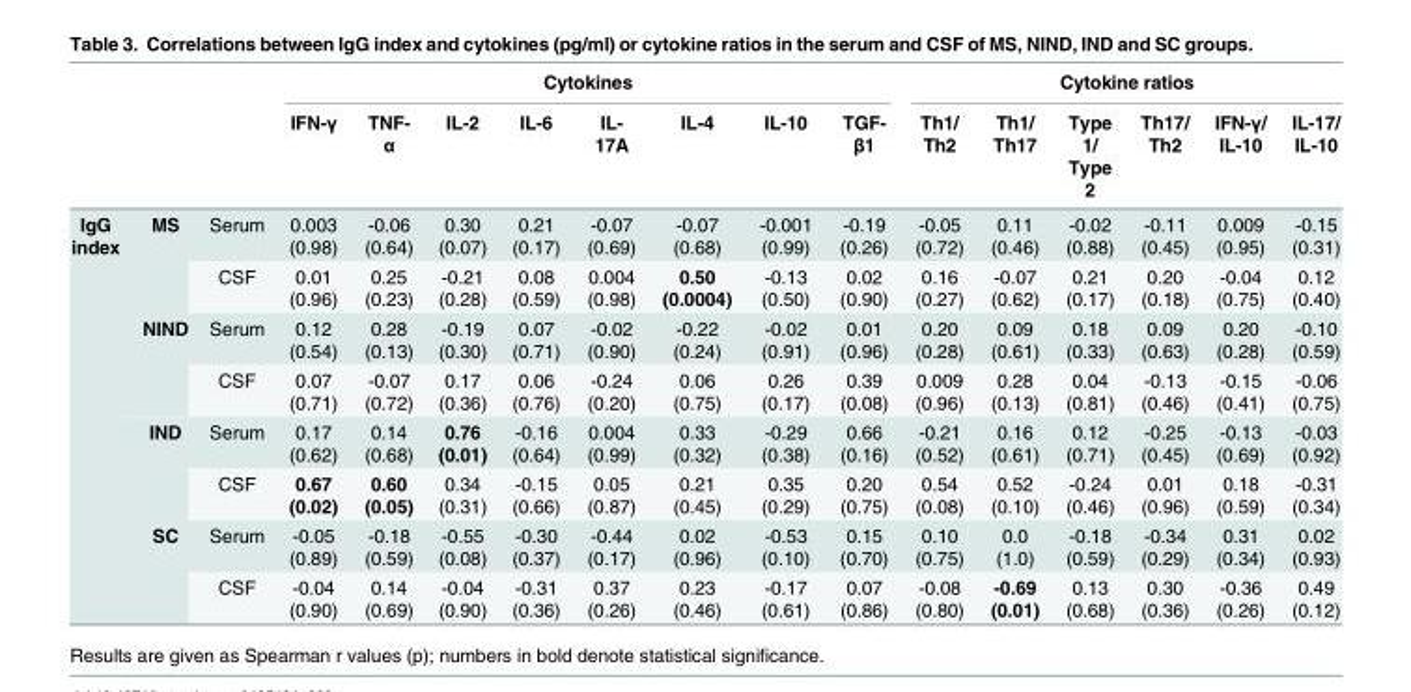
<table><thead><tr><td rowspan="2"></td><td rowspan="2"></td><td rowspan="2"></td><td colspan="8">Cytokines</td><td colspan="6">Cytokine ratios</td></tr><tr><td>IFN-γ</td><td>TNF- α</td><td>IL-2</td><td>IL-6</td><td>IL- 17A</td><td>IL-4</td><td>IL-10</td><td>TGF- β1</td><td>Th1/ Th2</td><td>Th1/ Th17</td><td>Type 1/ Type 2</td><td>Th17/ Th2</td><td>IFN-γ/ IL-10</td><td>IL-17/ IL-10</td></tr></thead><tbody><tr><td rowspan="8">IgG index</td><td rowspan="2">MS</td><td>Serum</td><td>0.003 (0.98)</td><td>-0.06 (0.64)</td><td>0.30 (0.07)</td><td>0.21 (0.17)</td><td>-0.07 (0.69)</td><td>-0.07 (0.68)</td><td>-0.001 (0.99)</td><td>-0.19 (0.26)</td><td>-0.05 (0.72)</td><td>0.11 (0.46)</td><td>-0.02 (0.88)</td><td>-0.11 (0.45)</td><td>0.009 (0.95)</td><td>-0.15 (0.31)</td></tr><tr><td>CSF</td><td>0.01 (0.96)</td><td>0.25 (0.23)</td><td>-0.21 (0.28)</td><td>0.08 (0.59)</td><td>0.004 (0.98)</td><td>0.50 (0.0004)</td><td>-0.13 (0.50)</td><td>0.02 (0.90)</td><td>0.16 (0.27)</td><td>-0.07 (0.62)</td><td>0.21 (0.17)</td><td>0.20 (0.18)</td><td>-0.04 (0.75)</td><td>0.12 (0.40)</td></tr><tr><td rowspan="2">NIND</td><td>Serum</td><td>0.12 (0.54)</td><td>0.28 (0.13)</td><td>-0.19 (0.30)</td><td>0.07 (0.71)</td><td>-0.02 (0.90)</td><td>-0.22 (0.24)</td><td>-0.02 (0.91)</td><td>0.01 (0.96)</td><td>0.20 (0.28)</td><td>0.09 (0.61)</td><td>0.18 (0.33)</td><td>0.09 (0.63)</td><td>0.20 (0.28)</td><td>-0.10 (0.59)</td></tr><tr><td>CSF</td><td>0.07 (0.71)</td><td>-0.07 (0.72)</td><td>0.17 (0.36)</td><td>0.06 (0.76)</td><td>-0.24 (0.20)</td><td>0.06 (0.75)</td><td>0.26 (0.17)</td><td>0.39 (0.08)</td><td>0.009 (0.96)</td><td>0.28 (0.13)</td><td>0.04 (0.81)</td><td>-0.13 (0.46)</td><td>-0.15 (0.41)</td><td>-0.06 (0.75)</td></tr><tr><td rowspan="2">IND</td><td>Serum</td><td>0.17 (0.62)</td><td>0.14 (0.68)</td><td>0.76 (0.01)</td><td>-0.16 (0.64)</td><td>0.004 (0.99)</td><td>0.33 (0.32)</td><td>-0.29 (0.38)</td><td>0.66 (0.16)</td><td>-0.21 (0.52)</td><td>0.16 (0.61)</td><td>0.12 (0.71)</td><td>-0.25 (0.45)</td><td>-0.13 (0.69)</td><td>-0.03 (0.92)</td></tr><tr><td>CSF</td><td>0.67 (0.02)</td><td>0.60 (0.05)</td><td>0.34 (0.31)</td><td>-0.15 (0.66)</td><td>0.05 (0.87)</td><td>0.21 (0.45)</td><td>0.35 (0.29)</td><td>0.20 (0.75)</td><td>0.54 (0.08)</td><td>0.52 (0.10)</td><td>-0.24 (0.46)</td><td>0.01 (0.96)</td><td>0.18 (0.59)</td><td>-0.31 (0.34)</td></tr><tr><td rowspan="2">SC</td><td>Serum</td><td>-0.05 (0.89)</td><td>-0.18 (0.59)</td><td>-0.55 (0.08)</td><td>-0.30 (0.37)</td><td>-0.44 (0.17)</td><td>0.02 (0.96)</td><td>-0.53 (0.10)</td><td>0.15 (0.70)</td><td>0.10 (0.75)</td><td>0.0 (1.0)</td><td>-0.18 (0.59)</td><td>-0.34 (0.29)</td><td>0.31 (0.34)</td><td>0.02 (0.93)</td></tr><tr><td>CSF</td><td>-0.04 (0.90)</td><td>0.14 (0.69)</td><td>-0.04 (0.90)</td><td>-0.31 (0.36)</td><td>0.37 (0.26)</td><td>0.23 (0.46)</td><td>-0.17 (0.61)</td><td>0.07 (0.86)</td><td>-0.08 (0.80)</td><td>-0.69 (0.01)</td><td>0.13 (0.68)</td><td>0.30 (0.36)</td><td>-0.36 (0.26)</td><td>0.49 (0.12)</td></tr></tbody></table>